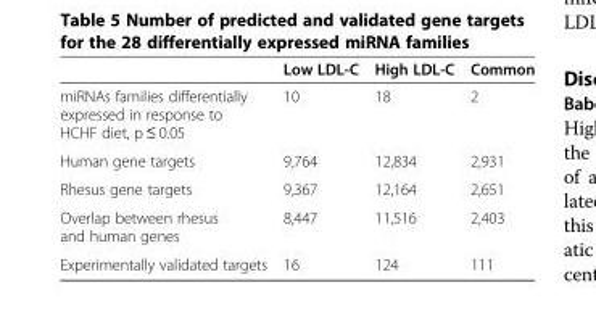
<table><thead><tr><td></td><td>Low LDL-C</td><td>High LDL-C</td><td>Common</td></tr></thead><tbody><tr><td>miRNAs families differentially expressed in response to HCHF diet, p ≤ 0.05</td><td>10</td><td>18</td><td>2</td></tr><tr><td>Human gene targets</td><td>9,764</td><td>12,834</td><td>2,931</td></tr><tr><td>Rhesus gene targets</td><td>9,367</td><td>12,164</td><td>2,651</td></tr><tr><td>Overlap between rhesus and human genes</td><td>8,447</td><td>11,516</td><td>2,403</td></tr><tr><td>Experimentally validated targets</td><td>16</td><td>124</td><td>111</td></tr></tbody></table>